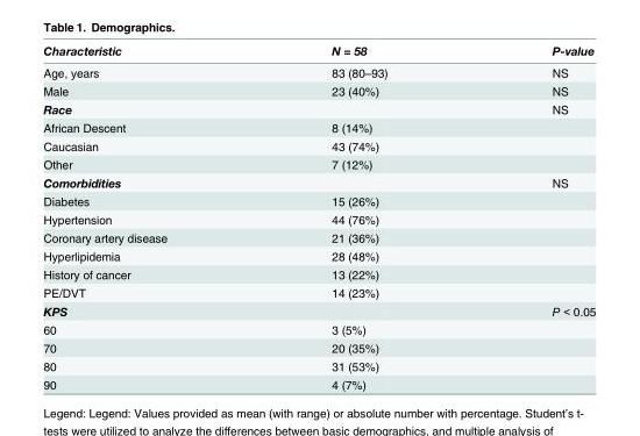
<table><thead><tr><td>Characteristic</td><td>N = 58</td><td>P-value</td></tr></thead><tbody><tr><td>Age, years</td><td>83 (80–93)</td><td>NS</td></tr><tr><td>Male</td><td>23 (40%)</td><td>NS</td></tr><tr><td>Race</td><td></td><td>NS</td></tr><tr><td>African Descent</td><td>8 (14%)</td><td></td></tr><tr><td>Caucasian</td><td>43 (74%)</td><td></td></tr><tr><td>Other</td><td>7 (12%)</td><td></td></tr><tr><td>Comorbidities</td><td></td><td>NS</td></tr><tr><td>Diabetes</td><td>15 (26%)</td><td></td></tr><tr><td>Hypertension</td><td>44 (76%)</td><td></td></tr><tr><td>Coronary artery disease</td><td>21 (36%)</td><td></td></tr><tr><td>Hyperlipidemia</td><td>28 (48%)</td><td></td></tr><tr><td>History of cancer</td><td>13 (22%)</td><td></td></tr><tr><td>PE/DVT</td><td>14 (23%)</td><td></td></tr><tr><td>KPS</td><td></td><td>P &lt; 0.05</td></tr><tr><td>60</td><td>3 (5%)</td><td></td></tr><tr><td>70</td><td>20 (35%)</td><td></td></tr><tr><td>80</td><td>31 (53%)</td><td></td></tr><tr><td>90</td><td>4 (7%)</td><td></td></tr></tbody></table>